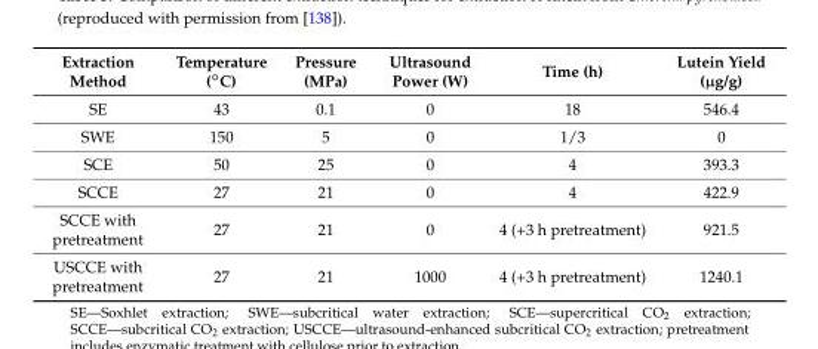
<table><thead><tr><td>Extraction Method</td><td>Temperature (◦C)</td><td>Pressure (MPa)</td><td>Ultrasound Power (W)</td><td>Time (h)</td><td>Lutein Yield (µg/g)</td></tr></thead><tbody><tr><td>SE</td><td>43</td><td>0.1</td><td>0</td><td>18</td><td>546.4</td></tr><tr><td>SWE</td><td>150</td><td>5</td><td>0</td><td>1/3</td><td>0</td></tr><tr><td>SCE</td><td>50</td><td>25</td><td>0</td><td>4</td><td>393.3</td></tr><tr><td>SCCE</td><td>27</td><td>21</td><td>0</td><td>4</td><td>422.9</td></tr><tr><td>SCCE with pretreatment</td><td>27</td><td>21</td><td>0</td><td>4 (+3 h pretreatment)</td><td>921.5</td></tr><tr><td>USCCE with pretreatment</td><td>27</td><td>21</td><td>1000</td><td>4 (+3 h pretreatment)</td><td>1240.1</td></tr></tbody></table>